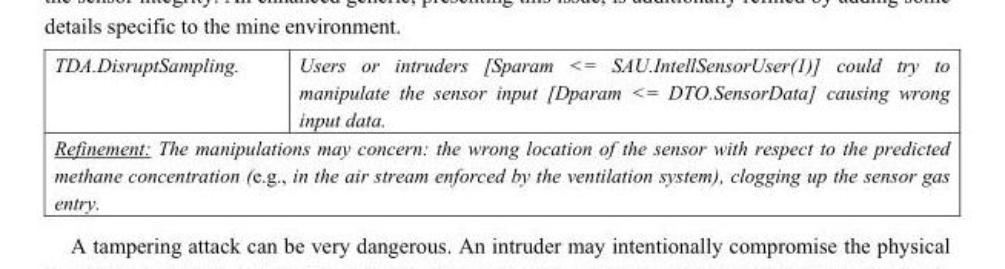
<table><tbody><tr><td>TDA.DisruptSampling.</td><td>Users or intruders [Sparam &lt;= SAU.IntellSensorUser(1)] could try to manipulate the sensor input [Dparam &lt;= DTO.SensorData] causing wrong input data.</td></tr><tr><td colspan="2">Refinement: The manipulations may concern: the wrong location of the sensor with respect to the predicted methane concentration (e.g., in the air stream enforced by the ventilation system), clogging up the sensor gas entry.</td></tr></tbody></table>